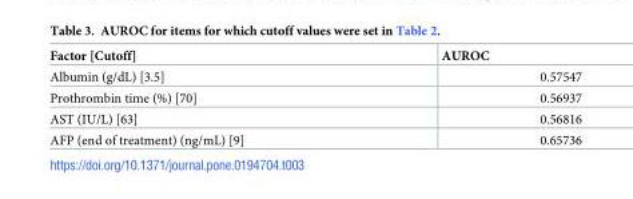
<table><thead><tr><td>Factor [Cutoff]</td><td>AUROC</td></tr></thead><tbody><tr><td>Albumin (g/dL) [3.5]</td><td>0.57547</td></tr><tr><td>Prothrombin time (%) [70]</td><td>0.56937</td></tr><tr><td>AST (IU/L) [63]</td><td>0.56816</td></tr><tr><td>AFP (end of treatment) (ng/mL) [9]</td><td>0.65736</td></tr></tbody></table>